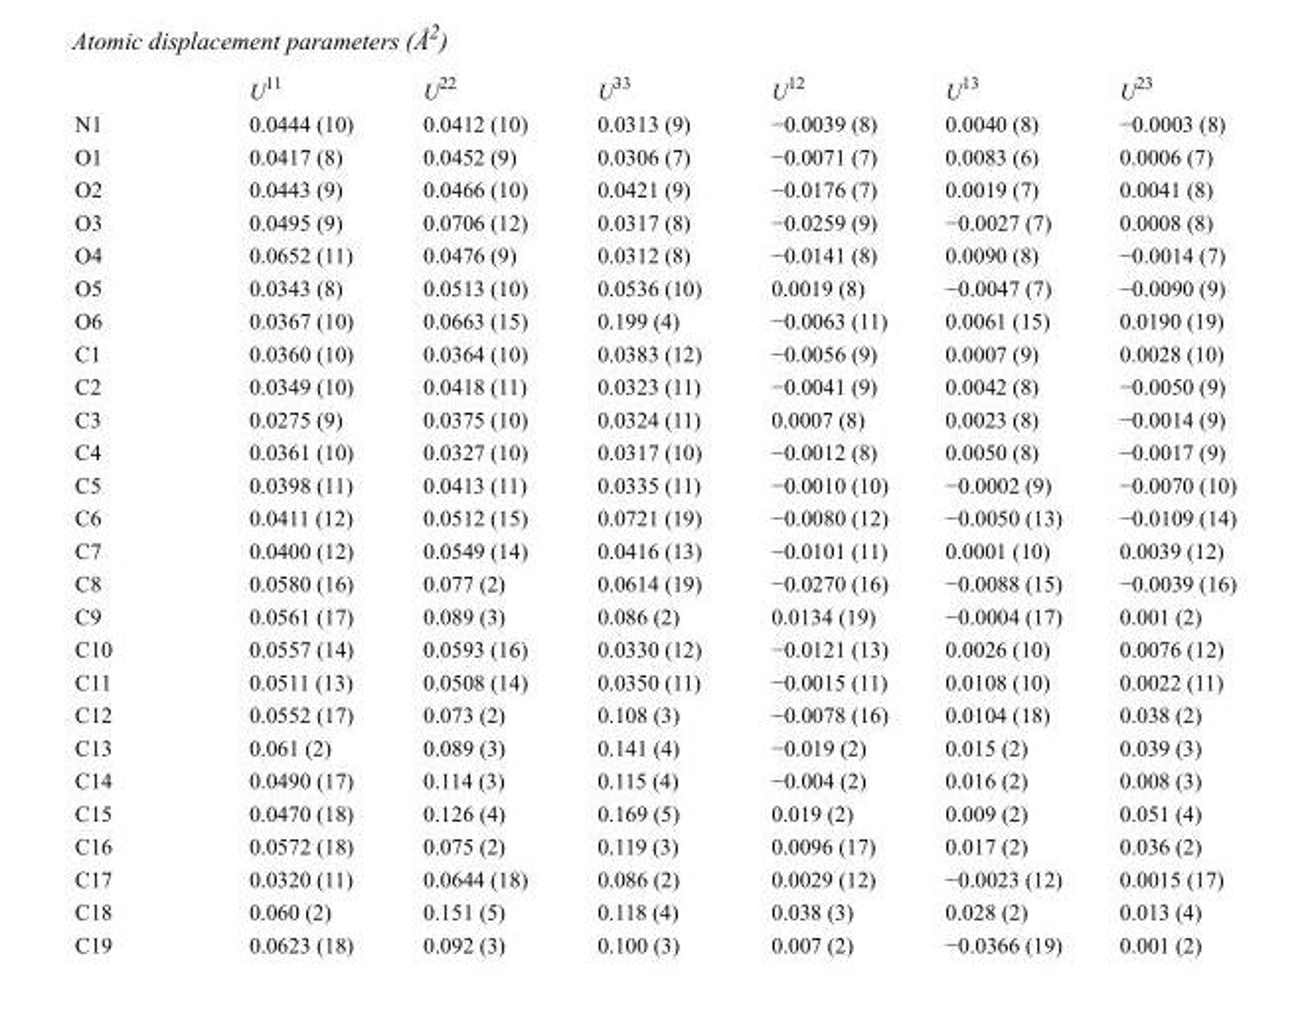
<table><thead><tr><td></td><td>U<sup>11</sup></td><td>U<sup>22</sup></td><td>U<sup>33</sup></td><td>U<sup>12</sup></td><td>U<sup>13</sup></td><td>U<sup>23</sup></td></tr></thead><tbody><tr><td>N1</td><td>0.0444 (10)</td><td>0.0412 (10)</td><td>0.0313 (9)</td><td>−0.0039 (8)</td><td>0.0040 (8)</td><td>−0.0003 (8)</td></tr><tr><td>O1</td><td>0.0417 (8)</td><td>0.0452 (9)</td><td>0.0306 (7)</td><td>−0.0071 (7)</td><td>0.0083 (6)</td><td>0.0006 (7)</td></tr><tr><td>O2</td><td>0.0443 (9)</td><td>0.0466 (10)</td><td>0.0421 (9)</td><td>−0.0176 (7)</td><td>0.0019 (7)</td><td>0.0041 (8)</td></tr><tr><td>O3</td><td>0.0495 (9)</td><td>0.0706 (12)</td><td>0.0317 (8)</td><td>−0.0259 (9)</td><td>−0.0027 (7)</td><td>0.0008 (8)</td></tr><tr><td>O4</td><td>0.0652 (11)</td><td>0.0476 (9)</td><td>0.0312 (8)</td><td>−0.0141 (8)</td><td>0.0090 (8)</td><td>−0.0014 (7)</td></tr><tr><td>O5</td><td>0.0343 (8)</td><td>0.0513 (10)</td><td>0.0536 (10)</td><td>0.0019 (8)</td><td>−0.0047 (7)</td><td>−0.0090 (9)</td></tr><tr><td>O6</td><td>0.0367 (10)</td><td>0.0663 (15)</td><td>0.199 (4)</td><td>−0.0063 (11)</td><td>0.0061 (15)</td><td>0.0190 (19)</td></tr><tr><td>C1</td><td>0.0360 (10)</td><td>0.0364 (10)</td><td>0.0383 (12)</td><td>−0.0056 (9)</td><td>0.0007 (9)</td><td>0.0028 (10)</td></tr><tr><td>C2</td><td>0.0349 (10)</td><td>0.0418 (11)</td><td>0.0323 (11)</td><td>−0.0041 (9)</td><td>0.0042 (8)</td><td>−0.0050 (9)</td></tr><tr><td>C3</td><td>0.0275 (9)</td><td>0.0375 (10)</td><td>0.0324 (11)</td><td>0.0007 (8)</td><td>0.0023 (8)</td><td>−0.0014 (9)</td></tr><tr><td>C4</td><td>0.0361 (10)</td><td>0.0327 (10)</td><td>0.0317 (10)</td><td>−0.0012 (8)</td><td>0.0050 (8)</td><td>−0.0017 (9)</td></tr><tr><td>C5</td><td>0.0398 (11)</td><td>0.0413 (11)</td><td>0.0335 (11)</td><td>−0.0010 (10)</td><td>−0.0002 (9)</td><td>−0.0070 (10)</td></tr><tr><td>C6</td><td>0.0411 (12)</td><td>0.0512 (15)</td><td>0.0721 (19)</td><td>−0.0080 (12)</td><td>−0.0050 (13)</td><td>−0.0109 (14)</td></tr><tr><td>C7</td><td>0.0400 (12)</td><td>0.0549 (14)</td><td>0.0416 (13)</td><td>−0.0101 (11)</td><td>0.0001 (10)</td><td>0.0039 (12)</td></tr><tr><td>C8</td><td>0.0580 (16)</td><td>0.077 (2)</td><td>0.0614 (19)</td><td>−0.0270 (16)</td><td>−0.0088 (15)</td><td>−0.0039 (16)</td></tr><tr><td>C9</td><td>0.0561 (17)</td><td>0.089 (3)</td><td>0.086 (2)</td><td>0.0134 (19)</td><td>−0.0004 (17)</td><td>0.001 (2)</td></tr><tr><td>C10</td><td>0.0557 (14)</td><td>0.0593 (16)</td><td>0.0330 (12)</td><td>−0.0121 (13)</td><td>0.0026 (10)</td><td>0.0076 (12)</td></tr><tr><td>C11</td><td>0.0511 (13)</td><td>0.0508 (14)</td><td>0.0350 (11)</td><td>−0.0015 (11)</td><td>0.0108 (10)</td><td>0.0022 (11)</td></tr><tr><td>C12</td><td>0.0552 (17)</td><td>0.073 (2)</td><td>0.108 (3)</td><td>−0.0078 (16)</td><td>0.0104 (18)</td><td>0.038 (2)</td></tr><tr><td>C13</td><td>0.061 (2)</td><td>0.089 (3)</td><td>0.141 (4)</td><td>−0.019 (2)</td><td>0.015 (2)</td><td>0.039 (3)</td></tr><tr><td>C14</td><td>0.0490 (17)</td><td>0.114 (3)</td><td>0.115 (4)</td><td>−0.004 (2)</td><td>0.016 (2)</td><td>0.008 (3)</td></tr><tr><td>C15</td><td>0.0470 (18)</td><td>0.126 (4)</td><td>0.169 (5)</td><td>0.019 (2)</td><td>0.009 (2)</td><td>0.051 (4)</td></tr><tr><td>C16</td><td>0.0572 (18)</td><td>0.075 (2)</td><td>0.119 (3)</td><td>0.0096 (17)</td><td>0.017 (2)</td><td>0.036 (2)</td></tr><tr><td>C17</td><td>0.0320 (11)</td><td>0.0644 (18)</td><td>0.086 (2)</td><td>0.0029 (12)</td><td>−0.0023 (12)</td><td>0.0015 (17)</td></tr><tr><td>C18</td><td>0.060 (2)</td><td>0.151 (5)</td><td>0.118 (4)</td><td>0.038 (3)</td><td>0.028 (2)</td><td>0.013 (4)</td></tr><tr><td>C19</td><td>0.0623 (18)</td><td>0.092 (3)</td><td>0.100 (3)</td><td>0.007 (2)</td><td>−0.0366 (19)</td><td>0.001 (2)</td></tr></tbody></table>